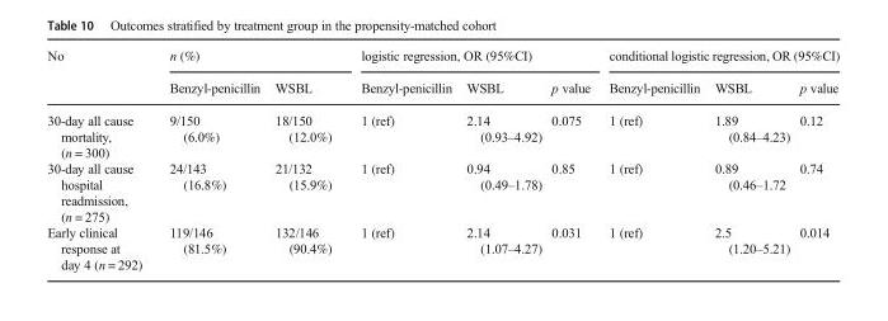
<table><thead><tr><td rowspan="2">No</td><td colspan="2">n (%)</td><td colspan="3">logistic regression, OR (95%CI)</td><td colspan="3">conditional logistic regression, OR (95%CI)</td></tr><tr><td>Benzyl-penicillin</td><td>WSBL</td><td>Benzyl-penicillin</td><td>WSBL</td><td>p value</td><td>Benzyl-penicillin</td><td>WSBL</td><td>p value</td></tr></thead><tbody><tr><td>30-day all cause mortality, (n = 300)</td><td>9/150 (6.0%)</td><td>18/150 (12.0%)</td><td>1 (ref)</td><td>2.14 (0.93–4.92)</td><td>0.075</td><td>1 (ref)</td><td>1.89 (0.84–4.23)</td><td>0.12</td></tr><tr><td>30-day all cause hospital readmission, (n = 275)</td><td>24/143 (16.8%)</td><td>21/132 (15.9%)</td><td>1 (ref)</td><td>0.94 (0.49–1.78)</td><td>0.85</td><td>1 (ref)</td><td>0.89 (0.46–1.72</td><td>0.74</td></tr><tr><td>Early clinical response at day 4 (n = 292)</td><td>119/146 (81.5%)</td><td>132/146 (90.4%)</td><td>1 (ref)</td><td>2.14 (1.07–4.27)</td><td>0.031</td><td>1 (ref)</td><td>2.5 (1.20–5.21)</td><td>0.014</td></tr></tbody></table>